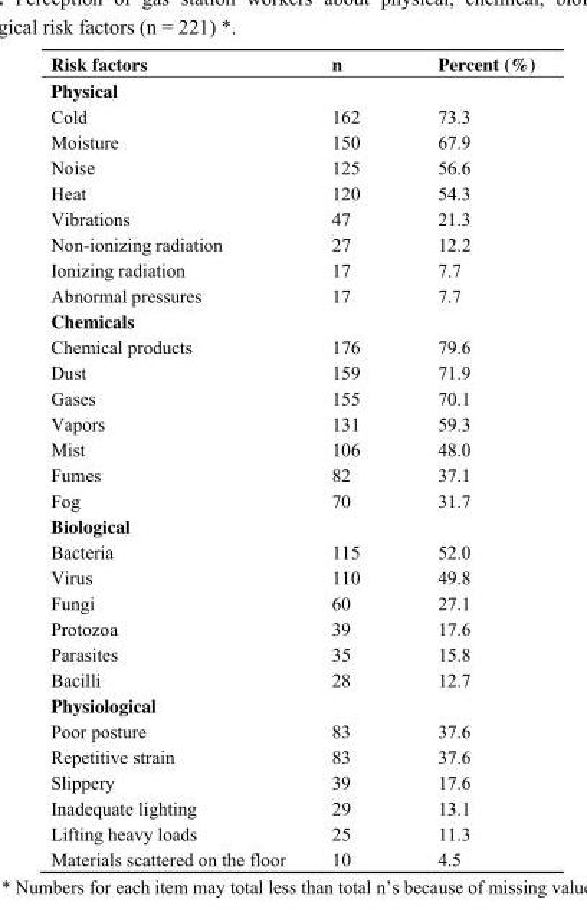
<table><thead><tr><td>Risk factors</td><td>n</td><td>Percent (%)</td></tr></thead><tbody><tr><td colspan="3">Physical</td></tr><tr><td>Cold</td><td>162</td><td>73.3</td></tr><tr><td>Moisture</td><td>150</td><td>67.9</td></tr><tr><td>Noise</td><td>125</td><td>56.6</td></tr><tr><td>Heat</td><td>120</td><td>54.3</td></tr><tr><td>Vibrations</td><td>47</td><td>21.3</td></tr><tr><td>Non-ionizing radiation</td><td>27</td><td>12.2</td></tr><tr><td>Ionizing radiation</td><td>17</td><td>7.7</td></tr><tr><td>Abnormal pressures</td><td>17</td><td>7.7</td></tr><tr><td colspan="3">Chemicals</td></tr><tr><td>Chemical products</td><td>176</td><td>79.6</td></tr><tr><td>Dust</td><td>159</td><td>71.9</td></tr><tr><td>Gases</td><td>155</td><td>70.1</td></tr><tr><td>Vapors</td><td>131</td><td>59.3</td></tr><tr><td>Mist</td><td>106</td><td>48.0</td></tr><tr><td>Fumes</td><td>82</td><td>37.1</td></tr><tr><td>Fog</td><td>70</td><td>31.7</td></tr><tr><td colspan="3">Biological</td></tr><tr><td>Bacteria</td><td>115</td><td>52.0</td></tr><tr><td>Virus</td><td>110</td><td>49.8</td></tr><tr><td>Fungi</td><td>60</td><td>27.1</td></tr><tr><td>Protozoa</td><td>39</td><td>17.6</td></tr><tr><td>Parasites</td><td>35</td><td>15.8</td></tr><tr><td>Bacilli</td><td>28</td><td>12.7</td></tr><tr><td colspan="3">Physiological</td></tr><tr><td>Poor posture</td><td>83</td><td>37.6</td></tr><tr><td>Repetitive strain</td><td>83</td><td>37.6</td></tr><tr><td>Slippery</td><td>39</td><td>17.6</td></tr><tr><td>Inadequate lighting</td><td>29</td><td>13.1</td></tr><tr><td>Lifting heavy loads</td><td>25</td><td>11.3</td></tr><tr><td>Materials scattered on the floor</td><td>10</td><td>4.5</td></tr></tbody></table>